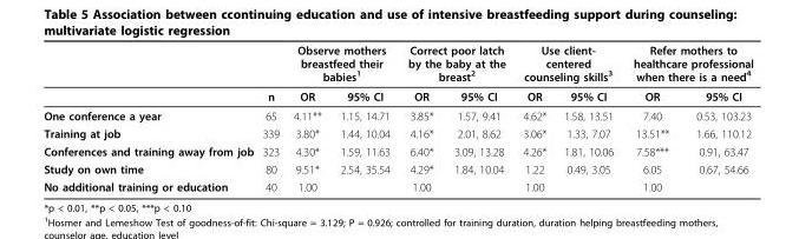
<table><thead><tr><td rowspan="2"></td><td rowspan="2">n</td><td colspan="2">Observe mothers breastfeed their babies<sup>1</sup></td><td colspan="2">Correct poor latch by the baby at the breast<sup>2</sup></td><td colspan="2">Use client- centered counseling skills<sup>3</sup></td><td colspan="2">Refer mothers to healthcare professional when there is a need<sup>4</sup></td></tr><tr><td>OR</td><td>95% CI</td><td>OR</td><td>95% CI</td><td>OR</td><td>95% CI</td><td>OR</td><td>95% CI</td></tr></thead><tbody><tr><td>One conference a year</td><td>65</td><td>4.11**</td><td>1.15, 14.71</td><td>3.85*</td><td>1.57, 9.41</td><td>4.62*</td><td>1.58, 13.51</td><td>7.40</td><td>0.53, 103.23</td></tr><tr><td>Training at job</td><td>339</td><td>3.80*</td><td>1.44, 10.04</td><td>4.16*</td><td>2.01, 8.62</td><td>3.06*</td><td>1.33, 7.07</td><td>13.51**</td><td>1.66, 110.12</td></tr><tr><td>Conferences and training away from job</td><td>323</td><td>4.30*</td><td>1.59, 11.63</td><td>6.40*</td><td>3.09, 13.28</td><td>4.26*</td><td>1.81, 10.06</td><td>7.58***</td><td>0.91, 63.47</td></tr><tr><td>Study on own time</td><td>80</td><td>9.51*</td><td>2.54, 35.54</td><td>4.29*</td><td>1.84, 10.04</td><td>1.22</td><td>0.49, 3.05</td><td>6.05</td><td>0.67, 54.66</td></tr><tr><td>No additional training or education</td><td>40</td><td>1.00</td><td></td><td>1.00</td><td></td><td>1.00</td><td></td><td>1.00</td><td></td></tr></tbody></table>